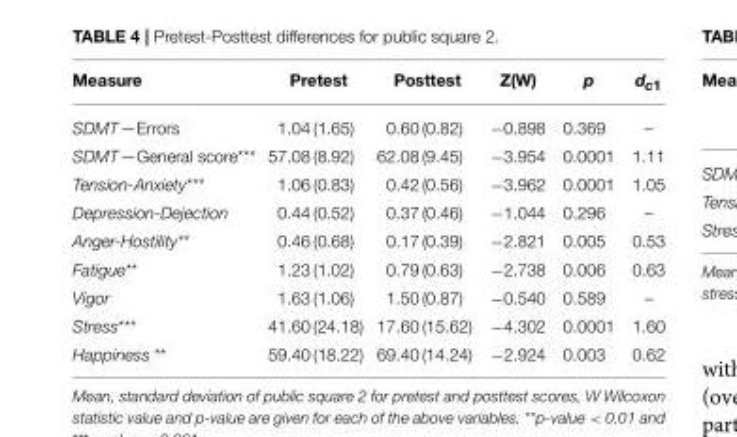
<table><thead><tr><td>Measure</td><td>Pretest</td><td>Posttest</td><td>Z(W)</td><td>p</td><td>d<sub>c1</sub></td></tr></thead><tbody><tr><td>SDMT—Errors</td><td>1.04 (1.65)</td><td>0.60 (0.82)</td><td>−0.898</td><td>0.369</td><td>–</td></tr><tr><td>SDMT—General score***</td><td>57.08 (8.92)</td><td>62.08 (9.45)</td><td>−3.954</td><td>0.0001</td><td>1.11</td></tr><tr><td>Tension-Anxiety***</td><td>1.06 (0.83)</td><td>0.42 (0.56)</td><td>−3.962</td><td>0.0001</td><td>1.05</td></tr><tr><td>Depression-Dejection</td><td>0.44 (0.52)</td><td>0.37 (0.46)</td><td>−1.044</td><td>0.296</td><td>–</td></tr><tr><td>Anger-Hostility**</td><td>0.46 (0.68)</td><td>0.17 (0.39)</td><td>−2.821</td><td>0.005</td><td>0.53</td></tr><tr><td>Fatigue**</td><td>1.23 (1.02)</td><td>0.79 (0.63)</td><td>−2.738</td><td>0.006</td><td>0.63</td></tr><tr><td>Vigor</td><td>1.63 (1.06)</td><td>1.50 (0.87)</td><td>−0.540</td><td>0.589</td><td>–</td></tr><tr><td>Stress***</td><td>41.60 (24.18)</td><td>17.60 (15.62)</td><td>−4.302</td><td>0.0001</td><td>1.60</td></tr><tr><td>Happiness **</td><td>59.40 (18.22)</td><td>69.40 (14.24)</td><td>−2.924</td><td>0.003</td><td>0.62</td></tr></tbody></table>